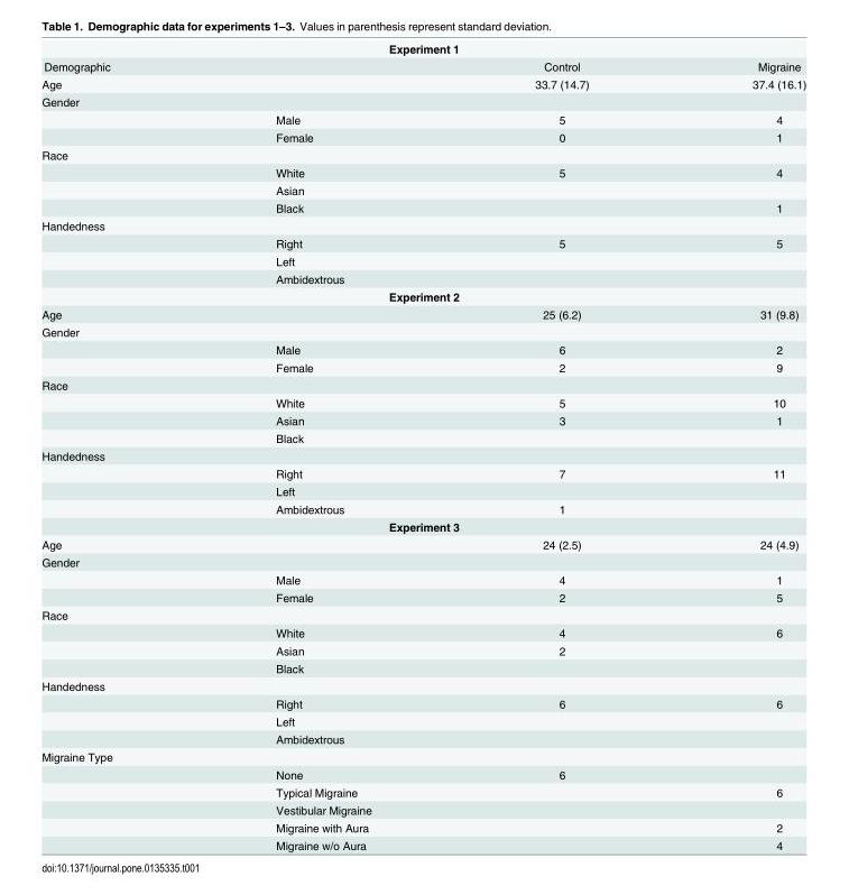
<table><tbody><tr><td colspan="4">Experiment 1</td></tr><tr><td>Demographic</td><td></td><td>Control</td><td>Migraine</td></tr><tr><td>Age</td><td></td><td>33.7 (14.7)</td><td>37.4 (16.1)</td></tr><tr><td colspan="4">Gender</td></tr><tr><td></td><td>Male</td><td>5</td><td>4</td></tr><tr><td></td><td>Female</td><td>0</td><td>1</td></tr><tr><td colspan="4">Race</td></tr><tr><td></td><td>White</td><td>5</td><td>4</td></tr><tr><td></td><td>Asian</td><td></td><td></td></tr><tr><td></td><td>Black</td><td></td><td>1</td></tr><tr><td colspan="4">Handedness</td></tr><tr><td></td><td>Right</td><td>5</td><td>5</td></tr><tr><td></td><td>Left</td><td></td><td></td></tr><tr><td></td><td>Ambidextrous</td><td></td><td></td></tr><tr><td colspan="4">Experiment 2</td></tr><tr><td>Age</td><td></td><td>25 (6.2)</td><td>31 (9.8)</td></tr><tr><td colspan="4">Gender</td></tr><tr><td></td><td>Male</td><td>6</td><td>2</td></tr><tr><td></td><td>Female</td><td>2</td><td>9</td></tr><tr><td colspan="4">Race</td></tr><tr><td></td><td>White</td><td>5</td><td>10</td></tr><tr><td></td><td>Asian</td><td>3</td><td>1</td></tr><tr><td></td><td>Black</td><td></td><td></td></tr><tr><td colspan="4">Handedness</td></tr><tr><td></td><td>Right</td><td>7</td><td>11</td></tr><tr><td></td><td>Left</td><td></td><td></td></tr><tr><td></td><td>Ambidextrous</td><td>1</td><td></td></tr><tr><td colspan="4">Experiment 3</td></tr><tr><td>Age</td><td></td><td>24 (2.5)</td><td>24 (4.9)</td></tr><tr><td colspan="4">Gender</td></tr><tr><td></td><td>Male</td><td>4</td><td>1</td></tr><tr><td></td><td>Female</td><td>2</td><td>5</td></tr><tr><td colspan="4">Race</td></tr><tr><td></td><td>White</td><td>4</td><td>6</td></tr><tr><td></td><td>Asian</td><td>2</td><td></td></tr><tr><td></td><td>Black</td><td></td><td></td></tr><tr><td colspan="4">Handedness</td></tr><tr><td></td><td>Right</td><td>6</td><td>6</td></tr><tr><td></td><td>Left</td><td></td><td></td></tr><tr><td></td><td>Ambidextrous</td><td></td><td></td></tr><tr><td colspan="4">Migraine Type</td></tr><tr><td></td><td>None</td><td>6</td><td></td></tr><tr><td></td><td>Typical Migraine</td><td></td><td>6</td></tr><tr><td></td><td>Vestibular Migraine</td><td></td><td></td></tr><tr><td></td><td>Migraine with Aura</td><td></td><td>2</td></tr><tr><td></td><td>Migraine w/o Aura</td><td></td><td>4</td></tr></tbody></table>